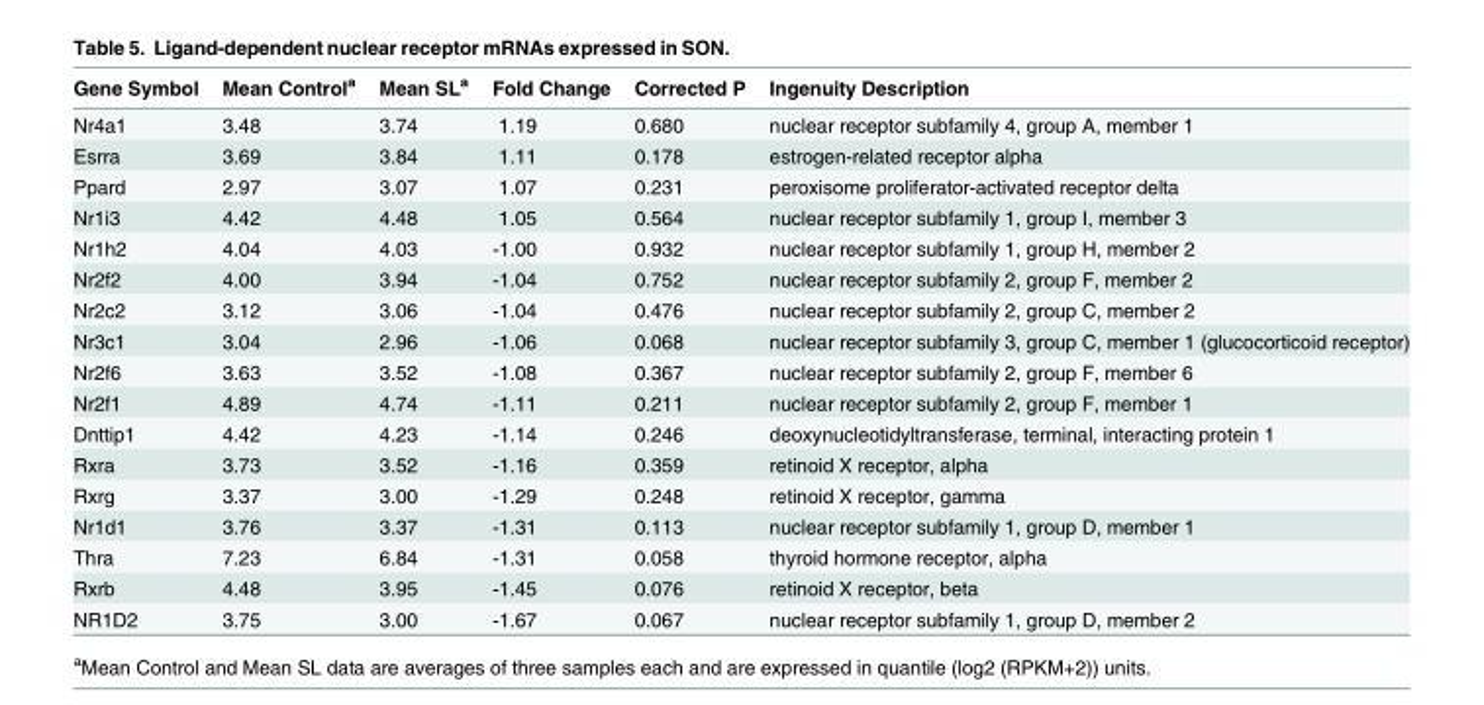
<table><thead><tr><td>Gene Symbol</td><td>Mean Control<sup>a</sup></td><td>Mean SL<sup>a</sup></td><td>Fold Change</td><td>Corrected P</td><td>Ingenuity Description</td></tr></thead><tbody><tr><td>Nr4a1</td><td>3.48</td><td>3.74</td><td>1.19</td><td>0.680</td><td>nuclear receptor subfamily 4, group A, member 1</td></tr><tr><td>Esrra</td><td>3.69</td><td>3.84</td><td>1.11</td><td>0.178</td><td>estrogen-related receptor alpha</td></tr><tr><td>Ppard</td><td>2.97</td><td>3.07</td><td>1.07</td><td>0.231</td><td>peroxisome proliferator-activated receptor delta</td></tr><tr><td>Nr1i3</td><td>4.42</td><td>4.48</td><td>1.05</td><td>0.564</td><td>nuclear receptor subfamily 1, group I, member 3</td></tr><tr><td>Nr1h2</td><td>4.04</td><td>4.03</td><td>-1.00</td><td>0.932</td><td>nuclear receptor subfamily 1, group H, member 2</td></tr><tr><td>Nr2f2</td><td>4.00</td><td>3.94</td><td>-1.04</td><td>0.752</td><td>nuclear receptor subfamily 2, group F, member 2</td></tr><tr><td>Nr2c2</td><td>3.12</td><td>3.06</td><td>-1.04</td><td>0.476</td><td>nuclear receptor subfamily 2, group C, member 2</td></tr><tr><td>Nr3c1</td><td>3.04</td><td>2.96</td><td>-1.06</td><td>0.068</td><td>nuclear receptor subfamily 3, group C, member 1 (glucocorticoid receptor)</td></tr><tr><td>Nr2f6</td><td>3.63</td><td>3.52</td><td>-1.08</td><td>0.367</td><td>nuclear receptor subfamily 2, group F, member 6</td></tr><tr><td>Nr2f1</td><td>4.89</td><td>4.74</td><td>-1.11</td><td>0.211</td><td>nuclear receptor subfamily 2, group F, member 1</td></tr><tr><td>Dnttip1</td><td>4.42</td><td>4.23</td><td>-1.14</td><td>0.246</td><td>deoxynucleotidyltransferase, terminal, interacting protein 1</td></tr><tr><td>Rxra</td><td>3.73</td><td>3.52</td><td>-1.16</td><td>0.359</td><td>retinoid X receptor, alpha</td></tr><tr><td>Rxrg</td><td>3.37</td><td>3.00</td><td>-1.29</td><td>0.248</td><td>retinoid X receptor, gamma</td></tr><tr><td>Nr1d1</td><td>3.76</td><td>3.37</td><td>-1.31</td><td>0.113</td><td>nuclear receptor subfamily 1, group D, member 1</td></tr><tr><td>Thra</td><td>7.23</td><td>6.84</td><td>-1.31</td><td>0.058</td><td>thyroid hormone receptor, alpha</td></tr><tr><td>Rxrb</td><td>4.48</td><td>3.95</td><td>-1.45</td><td>0.076</td><td>retinoid X receptor, beta</td></tr><tr><td>NR1D2</td><td>3.75</td><td>3.00</td><td>-1.67</td><td>0.067</td><td>nuclear receptor subfamily 1, group D, member 2</td></tr></tbody></table>